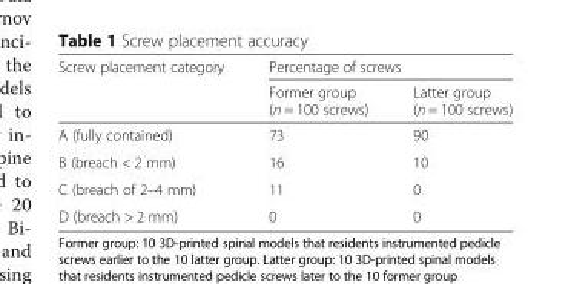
<table><thead><tr><td rowspan="2">Screw placement category</td><td colspan="2">Percentage of screws</td></tr><tr><td>Former group (n = 100 screws)</td><td>Latter group (n = 100 screws)</td></tr></thead><tbody><tr><td>A (fully contained)</td><td>73</td><td>90</td></tr><tr><td>B (breach &lt; 2 mm)</td><td>16</td><td>10</td></tr><tr><td>C (breach of 2–4 mm)</td><td>11</td><td>0</td></tr><tr><td>D (breach &gt; 2 mm)</td><td>0</td><td>0</td></tr></tbody></table>